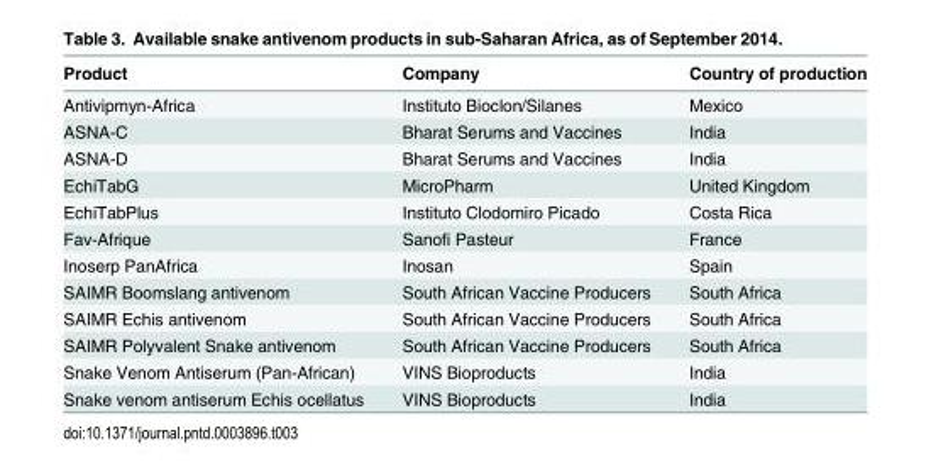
<table><thead><tr><td>Product</td><td>Company</td><td>Country of production</td></tr></thead><tbody><tr><td>Antivipmyn-Africa</td><td>Instituto Bioclon/Silanes</td><td>Mexico</td></tr><tr><td>ASNA-C</td><td>Bharat Serums and Vaccines</td><td>India</td></tr><tr><td>ASNA-D</td><td>Bharat Serums and Vaccines</td><td>India</td></tr><tr><td>EchiTabG</td><td>MicroPharm</td><td>United Kingdom</td></tr><tr><td>EchiTabPlus</td><td>Instituto Clodomiro Picado</td><td>Costa Rica</td></tr><tr><td>Fav-Afrique</td><td>Sanofi Pasteur</td><td>France</td></tr><tr><td>Inoserp PanAfrica</td><td>Inosan</td><td>Spain</td></tr><tr><td>SAIMR Boomslang antivenom</td><td>South African Vaccine Producers</td><td>South Africa</td></tr><tr><td>SAIMR Echis antivenom</td><td>South African Vaccine Producers</td><td>South Africa</td></tr><tr><td>SAIMR Polyvalent Snake antivenom</td><td>South African Vaccine Producers</td><td>South Africa</td></tr><tr><td>Snake Venom Antiserum (Pan-African)</td><td>VINS Bioproducts</td><td>India</td></tr><tr><td>Snake venom antiserum Echis ocellatus</td><td>VINS Bioproducts</td><td>India</td></tr></tbody></table>